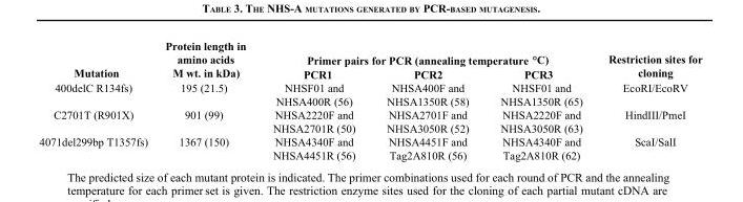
<table><thead><tr><td rowspan="2">Mutation</td><td rowspan="2">Protein length in amino acids M wt. in kDa)</td><td colspan="3">Primer pairs for PCR (annealing temperature °C)</td><td rowspan="2">Restriction sites for cloning</td></tr><tr><td>PCR1</td><td>PCR2</td><td>PCR3</td></tr></thead><tbody><tr><td>400delC R134fs)</td><td>195 (21.5)</td><td>NHSF01 and NHSA400R (56)</td><td>NHSA400F and NHSA1350R (58)</td><td>NHSF01 and NHSA1350R (65)</td><td>EcoRI/EcoRV</td></tr><tr><td>C2701T (R901X)</td><td>901 (99)</td><td>NHSA2220F and NHSA2701R (50)</td><td>NHSA2701F and NHSA3050R (52)</td><td>NHSA2220F and NHSA3050R (63)</td><td>HindIII/PmeI</td></tr><tr><td>4071del299bp T1357fs)</td><td>1367 (150)</td><td>NHSA4340F and NHSA4451R (56)</td><td>NHSA4451F and Tag2A810R (56)</td><td>NHSA4340F and Tag2A810R (62)</td><td>ScaI/SalI</td></tr></tbody></table>